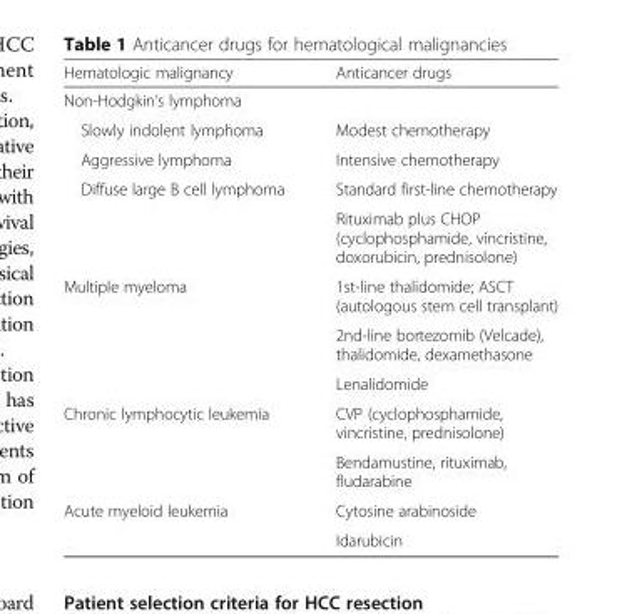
<table><thead><tr><td>Hematologic malignancy</td><td>Anticancer drugs</td></tr></thead><tbody><tr><td colspan="2">Non-Hodgkin’s lymphoma</td></tr><tr><td>Slowly indolent lymphoma</td><td>Modest chemotherapy</td></tr><tr><td>Aggressive lymphoma</td><td>Intensive chemotherapy</td></tr><tr><td rowspan="2">Diffuse large B cell lymphoma</td><td>Standard first-line chemotherapy</td></tr><tr><td>Rituximab plus CHOP (cyclophosphamide, vincristine, doxorubicin, prednisolone)</td></tr><tr><td rowspan="3">Multiple myeloma</td><td>1st-line thalidomide; ASCT (autologous stem cell transplant)</td></tr><tr><td>2nd-line bortezomib (Velcade), thalidomide, dexamethasone</td></tr><tr><td>Lenalidomide</td></tr><tr><td rowspan="2">Chronic lymphocytic leukemia</td><td>CVP (cyclophosphamide, vincristine, prednisolone)</td></tr><tr><td>Bendamustine, rituximab, fludarabine</td></tr><tr><td rowspan="2">Acute myeloid leukemia</td><td>Cytosine arabinoside</td></tr><tr><td>Idarubicin</td></tr></tbody></table>